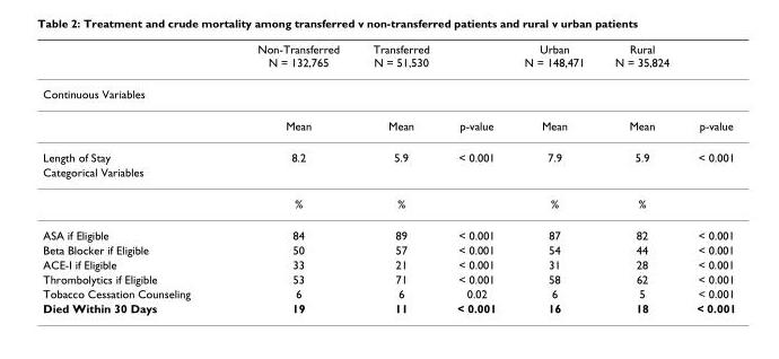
<table><thead><tr><td></td><td>Non-Transferred N = 132,765</td><td>Transferred N = 51,530</td><td></td><td>Urban N = 148,471</td><td>Rural N = 35,824</td><td></td></tr></thead><tbody><tr><td colspan="7">Continuous Variables</td></tr><tr><td></td><td>Mean</td><td>Mean</td><td>p-value</td><td>Mean</td><td>Mean</td><td>p-value</td></tr><tr><td>Length of Stay</td><td>8.2</td><td>5.9</td><td>&lt; 0.001</td><td>7.9</td><td>5.9</td><td>&lt; 0.001</td></tr><tr><td colspan="7">Categorical Variables</td></tr><tr><td></td><td>%</td><td>%</td><td></td><td>%</td><td>%</td><td></td></tr><tr><td>ASA if Eligible</td><td>84</td><td>89</td><td>&lt; 0.001</td><td>87</td><td>82</td><td>&lt; 0.001</td></tr><tr><td>Beta Blocker if Eligible</td><td>50</td><td>57</td><td>&lt; 0.001</td><td>54</td><td>44</td><td>&lt; 0.001</td></tr><tr><td>ACE-I if Eligible</td><td>33</td><td>21</td><td>&lt; 0.001</td><td>31</td><td>28</td><td>&lt; 0.001</td></tr><tr><td>Thrombolytics if Eligible</td><td>53</td><td>71</td><td>&lt; 0.001</td><td>58</td><td>62</td><td>&lt; 0.001</td></tr><tr><td>Tobacco Cessation Counseling</td><td>6</td><td>6</td><td>0.02</td><td>6</td><td>5</td><td>&lt; 0.001</td></tr><tr><td>Died Within 30 Days</td><td>19</td><td>11</td><td>&lt; 0.001</td><td>16</td><td>18</td><td>&lt; 0.001</td></tr></tbody></table>